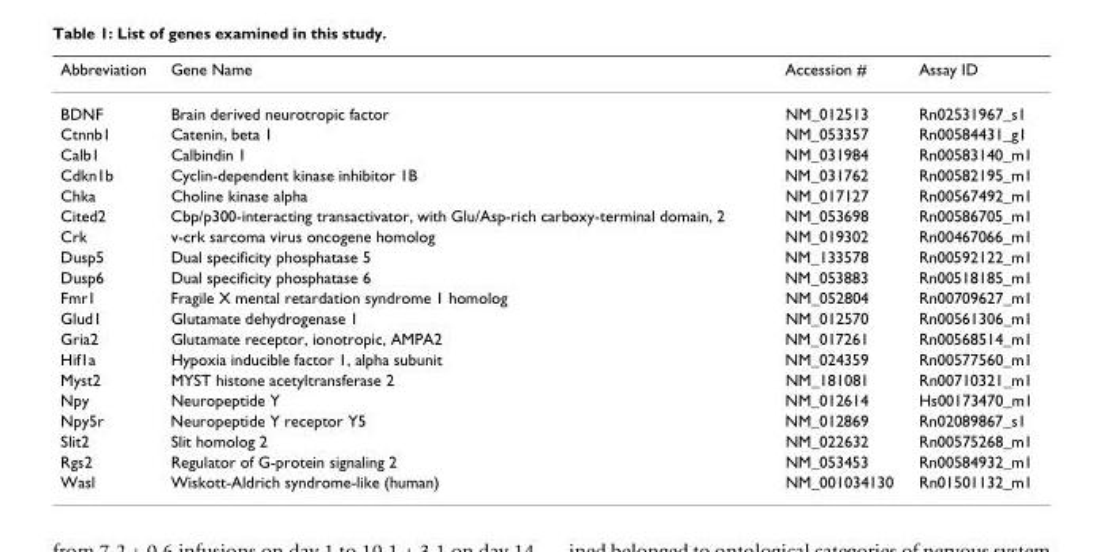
<table><thead><tr><td>Abbreviation</td><td>Gene Name</td><td>Accession #</td><td>Assay ID</td></tr></thead><tbody><tr><td>BDNF</td><td>Brain derived neurotropic factor</td><td>NM_012513</td><td>Rn02531967_s1</td></tr><tr><td>Ctnnb1</td><td>Catenin, beta 1</td><td>NM_053357</td><td>Rn00584431_g1</td></tr><tr><td>Calb1</td><td>Calbindin 1</td><td>NM_031984</td><td>Rn00583140_m1</td></tr><tr><td>Cdkn1b</td><td>Cyclin-dependent kinase inhibitor 1B</td><td>NM_031762</td><td>Rn00582195_m1</td></tr><tr><td>Chka</td><td>Choline kinase alpha</td><td>NM_017127</td><td>Rn00567492_m1</td></tr><tr><td>Cited2</td><td>Cbp/p300-interacting transactivator, with Glu/Asp-rich carboxy-terminal domain, 2</td><td>NM_053698</td><td>Rn00586705_m1</td></tr><tr><td>Crk</td><td>v-crk sarcoma virus oncogene homolog</td><td>NM_019302</td><td>Rn00467066_m1</td></tr><tr><td>Dusp5</td><td>Dual specificity phosphatase 5</td><td>NM_133578</td><td>Rn00592122_m1</td></tr><tr><td>Dusp6</td><td>Dual specificity phosphatase 6</td><td>NM_053883</td><td>Rn00518185_m1</td></tr><tr><td>Fmr1</td><td>Fragile X mental retardation syndrome 1 homolog</td><td>NM_052804</td><td>Rn00709627_m1</td></tr><tr><td>Glud1</td><td>Glutamate dehydrogenase 1</td><td>NM_012570</td><td>Rn00561306_m1</td></tr><tr><td>Gria2</td><td>Glutamate receptor, ionotropic, AMPA2</td><td>NM_017261</td><td>Rn00568514_m1</td></tr><tr><td>Hif1a</td><td>Hypoxia inducible factor 1, alpha subunit</td><td>NM_024359</td><td>Rn00577560_m1</td></tr><tr><td>Myst2</td><td>MYST histone acetyltransferase 2</td><td>NM_181081</td><td>Rn00710321_m1</td></tr><tr><td>Npy</td><td>Neuropeptide Y</td><td>NM_012614</td><td>Hs00173470_m1</td></tr><tr><td>Npy5r</td><td>Neuropeptide Y receptor Y5</td><td>NM_012869</td><td>Rn02089867_s1</td></tr><tr><td>Slit2</td><td>Slit homolog 2</td><td>NM_022632</td><td>Rn00575268_m1</td></tr><tr><td>Rgs2</td><td>Regulator of G-protein signaling 2</td><td>NM_053453</td><td>Rn00584932_m1</td></tr><tr><td>Wasl</td><td>Wiskott-Aldrich syndrome-like (human)</td><td>NM_001034130</td><td>Rn01501132_m1</td></tr></tbody></table>